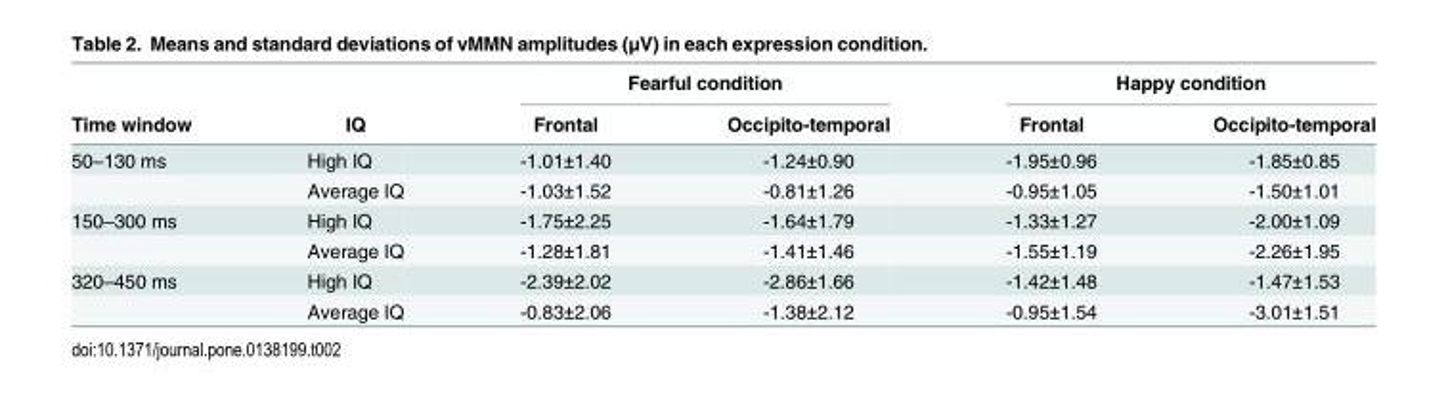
<table><thead><tr><td rowspan="2">Time window</td><td rowspan="2">IQ</td><td colspan="2">Fearful condition</td><td colspan="2">Happy condition</td></tr><tr><td>Frontal</td><td>Occipito-temporal</td><td>Frontal</td><td>Occipito-temporal</td></tr></thead><tbody><tr><td rowspan="2">50–130 ms</td><td>High IQ</td><td>-1.01±1.40</td><td>-1.24±0.90</td><td>-1.95±0.96</td><td>-1.85±0.85</td></tr><tr><td>Average IQ</td><td>-1.03±1.52</td><td>-0.81±1.26</td><td>-0.95±1.05</td><td>-1.50±1.01</td></tr><tr><td rowspan="2">150–300 ms</td><td>High IQ</td><td>-1.75±2.25</td><td>-1.64±1.79</td><td>-1.33±1.27</td><td>-2.00±1.09</td></tr><tr><td>Average IQ</td><td>-1.28±1.81</td><td>-1.41±1.46</td><td>-1.55±1.19</td><td>-2.26±1.95</td></tr><tr><td rowspan="2">320–450 ms</td><td>High IQ</td><td>-2.39±2.02</td><td>-2.86±1.66</td><td>-1.42±1.48</td><td>-1.47±1.53</td></tr><tr><td>Average IQ</td><td>-0.83±2.06</td><td>-1.38±2.12</td><td>-0.95±1.54</td><td>-3.01±1.51</td></tr></tbody></table>